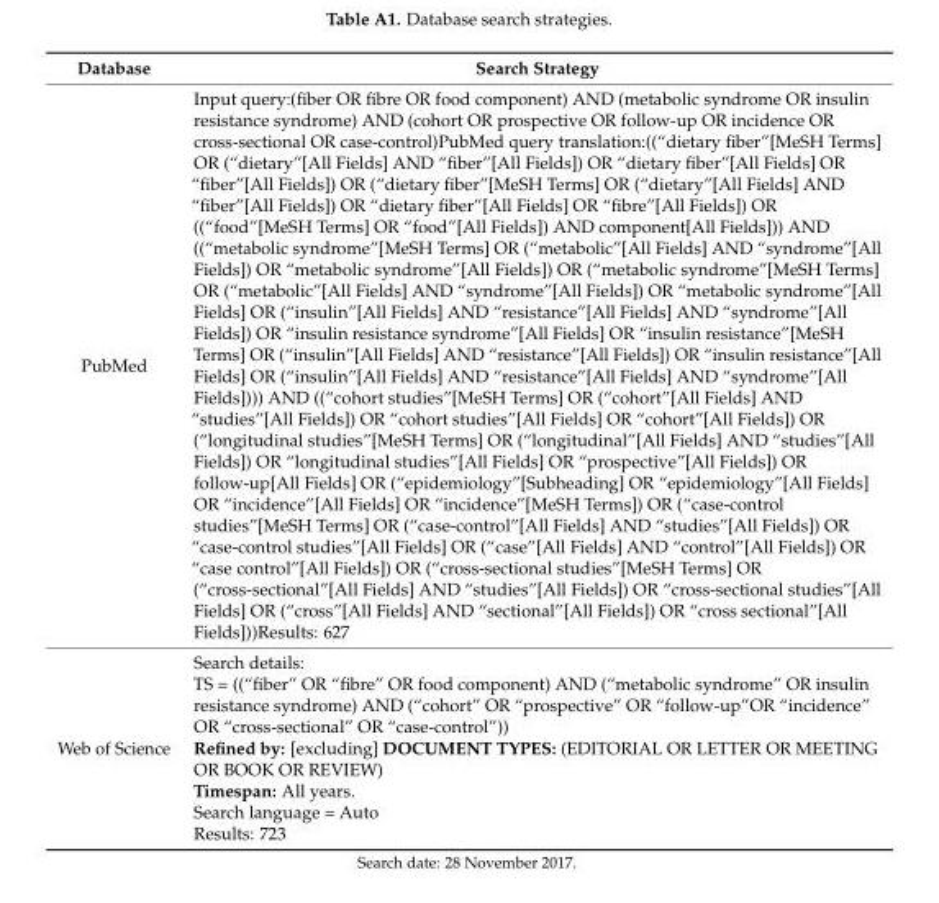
<table><thead><tr><td>Database</td><td>Search Strategy</td></tr></thead><tbody><tr><td>PubMed</td><td>Input query:(fiber OR fibre OR food component) AND (metabolic syndrome OR insulin resistance syndrome) AND (cohort OR prospective OR follow-up OR incidence OR cross-sectional OR case-control)PubMed query translation:((“dietary fiber”[MeSH Terms] OR (“dietary”[All Fields] AND “fiber”[All Fields]) OR “dietary fiber”[All Fields] OR “fiber”[All Fields]) OR (“dietary fiber”[MeSH Terms] OR (“dietary”[All Fields] AND “fiber”[All Fields]) OR “dietary fiber”[All Fields] OR “fibre”[All Fields]) OR ((“food”[MeSH Terms] OR “food”[All Fields]) AND component[All Fields])) AND ((“metabolic syndrome”[MeSH Terms] OR (“metabolic”[All Fields] AND “syndrome”[All Fields]) OR “metabolic syndrome”[All Fields]) OR (“metabolic syndrome”[MeSH Terms] OR (“metabolic”[All Fields] AND “syndrome”[All Fields]) OR “metabolic syndrome”[All Fields] OR (“insulin”[All Fields] AND “resistance”[All Fields] AND “syndrome”[All Fields]) OR “insulin resistance syndrome”[All Fields] OR “insulin resistance”[MeSH Terms] OR (“insulin”[All Fields] AND “resistance”[All Fields]) OR “insulin resistance”[All Fields] OR (“insulin”[All Fields] AND “resistance”[All Fields] AND “syndrome”[All Fields]))) AND ((“cohort studies”[MeSH Terms] OR (“cohort”[All Fields] AND “studies”[All Fields]) OR “cohort studies”[All Fields] OR “cohort”[All Fields]) OR (“longitudinal studies”[MeSH Terms] OR (“longitudinal”[All Fields] AND “studies”[All Fields]) OR “longitudinal studies”[All Fields] OR “prospective”[All Fields]) OR follow-up[All Fields] OR (“epidemiology”[Subheading] OR “epidemiology”[All Fields] OR “incidence”[All Fields] OR “incidence”[MeSH Terms]) OR (“case-control studies”[MeSH Terms] OR (“case-control”[All Fields] AND “studies”[All Fields]) OR “case-control studies”[All Fields] OR (“case”[All Fields] AND “control”[All Fields]) OR “case control”[All Fields]) OR (“cross-sectional studies”[MeSH Terms] OR (“cross-sectional”[All Fields] AND “studies”[All Fields]) OR “cross-sectional studies”[All Fields] OR (“cross”[All Fields] AND “sectional”[All Fields]) OR “cross sectional”[All Fields]))Results: 627</td></tr><tr><td>Web of Science</td><td>Search details: TS = ((“fiber” OR “fibre” OR food component) AND (“metabolic syndrome” OR insulin resistance syndrome) AND (“cohort” OR “prospective” OR “follow-up”OR “incidence” OR “cross-sectional” OR “case-control”)) Refined by: [excluding] DOCUMENT TYPES: (EDITORIAL OR LETTER OR MEETING OR BOOK OR REVIEW) Timespan: All years. Search language = Auto Results: 723</td></tr></tbody></table>